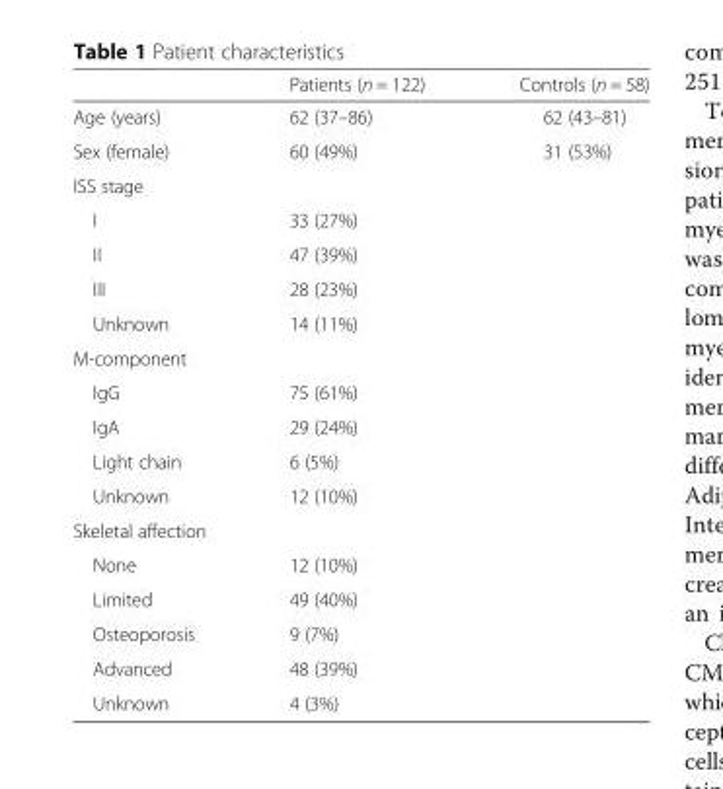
<table><thead><tr><td></td><td>Patients (n = 122)</td><td>Controls (n = 58)</td></tr></thead><tbody><tr><td>Age (years)</td><td>62 (37–86)</td><td>62 (43–81)</td></tr><tr><td>Sex (female)</td><td>60 (49%)</td><td>31 (53%)</td></tr><tr><td colspan="3">ISS stage</td></tr><tr><td>I</td><td>33 (27%)</td><td></td></tr><tr><td>II</td><td>47 (39%)</td><td></td></tr><tr><td>III</td><td>28 (23%)</td><td></td></tr><tr><td>Unknown</td><td>14 (11%)</td><td></td></tr><tr><td colspan="3">M-component</td></tr><tr><td>IgG</td><td>75 (61%)</td><td></td></tr><tr><td>IgA</td><td>29 (24%)</td><td></td></tr><tr><td>Light chain</td><td>6 (5%)</td><td></td></tr><tr><td>Unknown</td><td>12 (10%)</td><td></td></tr><tr><td colspan="3">Skeletal affection</td></tr><tr><td>None</td><td>12 (10%)</td><td></td></tr><tr><td>Limited</td><td>49 (40%)</td><td></td></tr><tr><td>Osteoporosis</td><td>9 (7%)</td><td></td></tr><tr><td>Advanced</td><td>48 (39%)</td><td></td></tr><tr><td>Unknown</td><td>4 (3%)</td><td></td></tr></tbody></table>